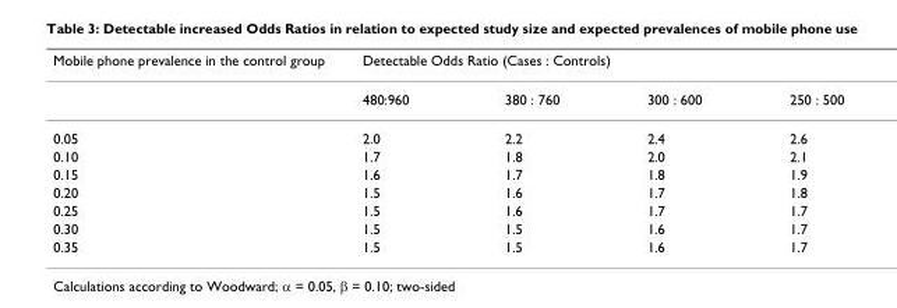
<table><thead><tr><td rowspan="2">Mobile phone prevalence in the control group</td><td colspan="4">Detectable Odds Ratio (Cases : Controls)</td></tr><tr><td>480:960</td><td>380 : 760</td><td>300 : 600</td><td>250 : 500</td></tr></thead><tbody><tr><td>0.05</td><td>2.0</td><td>2.2</td><td>2.4</td><td>2.6</td></tr><tr><td>0.10</td><td>1.7</td><td>1.8</td><td>2.0</td><td>2.1</td></tr><tr><td>0.15</td><td>1.6</td><td>1.7</td><td>1.8</td><td>1.9</td></tr><tr><td>0.20</td><td>1.5</td><td>1.6</td><td>1.7</td><td>1.8</td></tr><tr><td>0.25</td><td>1.5</td><td>1.6</td><td>1.7</td><td>1.7</td></tr><tr><td>0.30</td><td>1.5</td><td>1.5</td><td>1.6</td><td>1.7</td></tr><tr><td>0.35</td><td>1.5</td><td>1.5</td><td>1.6</td><td>1.7</td></tr></tbody></table>